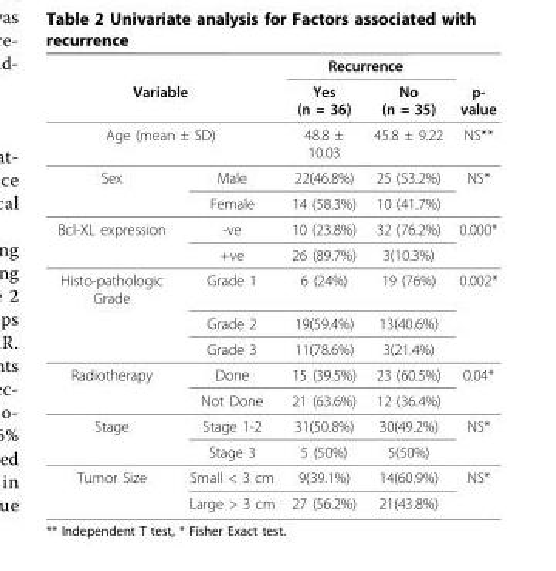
<table><thead><tr><td></td><td></td><td colspan="2">Recurrence</td><td rowspan="2">p- value</td></tr><tr><td colspan="2">Variable</td><td>Yes (n = 36)</td><td>No (n = 35)</td></tr></thead><tbody><tr><td colspan="2">Age (mean ± SD)</td><td>48.8 ± 10.03</td><td>45.8 ± 9.22</td><td>NS**</td></tr><tr><td rowspan="2">Sex</td><td>Male</td><td>22(46.8%)</td><td>25 (53.2%)</td><td>NS*</td></tr><tr><td>Female</td><td>14 (58.3%)</td><td>10 (41.7%)</td><td></td></tr><tr><td rowspan="2">Bcl-XL expression</td><td>-ve</td><td>10 (23.8%)</td><td>32 (76.2%)</td><td>0.000*</td></tr><tr><td>+ve</td><td>26 (89.7%)</td><td>3(10.3%)</td><td></td></tr><tr><td rowspan="3">Histo-pathologic Grade</td><td>Grade 1</td><td>6 (24%)</td><td>19 (76%)</td><td>0.002*</td></tr><tr><td>Grade 2</td><td>19(59.4%)</td><td>13(40.6%)</td><td></td></tr><tr><td>Grade 3</td><td>11(78.6%)</td><td>3(21.4%)</td><td></td></tr><tr><td rowspan="2">Radiotherapy</td><td>Done</td><td>15 (39.5%)</td><td>23 (60.5%)</td><td>0.04*</td></tr><tr><td>Not Done</td><td>21 (63.6%)</td><td>12 (36.4%)</td><td></td></tr><tr><td rowspan="2">Stage</td><td>Stage 1-2</td><td>31(50.8%)</td><td>30(49.2%)</td><td>NS*</td></tr><tr><td>Stage 3</td><td>5 (50%)</td><td>5(50%)</td><td></td></tr><tr><td rowspan="2">Tumor Size</td><td>Small &lt; 3 cm</td><td>9(39.1%)</td><td>14(60.9%)</td><td>NS*</td></tr><tr><td>Large &gt; 3 cm</td><td>27 (56.2%)</td><td>21(43.8%)</td><td></td></tr></tbody></table>